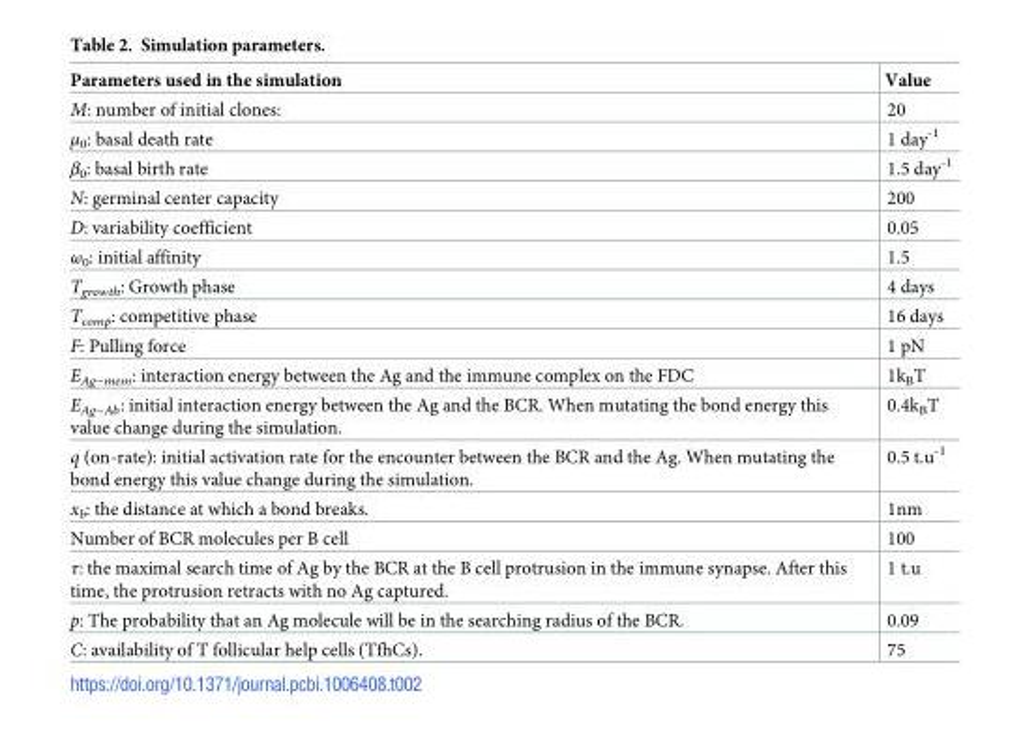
<table><thead><tr><td>Parameters used in the simulation</td><td>Value</td></tr></thead><tbody><tr><td>M: number of initial clones:</td><td>20</td></tr><tr><td>μ<sub>0</sub>: basal death rate</td><td>1 day<sup>-1</sup></td></tr><tr><td>β<sub>0</sub>: basal birth rate</td><td>1.5 day<sup>-1</sup></td></tr><tr><td>N: germinal center capacity</td><td>200</td></tr><tr><td>D: variability coefficient</td><td>0.05</td></tr><tr><td>ω<sub>0</sub>: initial affinity</td><td>1.5</td></tr><tr><td>T<sub>growth</sub>: Growth phase</td><td>4 days</td></tr><tr><td>T<sub>comp</sub>: competitive phase</td><td>16 days</td></tr><tr><td>F: Pulling force</td><td>1 pN</td></tr><tr><td>E<sub>Ag−mem</sub>: interaction energy between the Ag and the immune complex on the FDC</td><td>1k<sub>B</sub>T</td></tr><tr><td>E<sub>Ag−Ab</sub>: initial interaction energy between the Ag and the BCR. When mutating the bond energy this value change during the simulation.</td><td>0.4k<sub>B</sub>T</td></tr><tr><td>q (on-rate): initial activation rate for the encounter between the BCR and the Ag. When mutating the bond energy this value change during the simulation.</td><td>0.5 t.u<sup>-1</sup></td></tr><tr><td>x<sub>b</sub>: the distance at which a bond breaks.</td><td>1nm</td></tr><tr><td>Number of BCR molecules per B cell</td><td>100</td></tr><tr><td>τ: the maximal search time of Ag by the BCR at the B cell protrusion in the immune synapse. After this time, the protrusion retracts with no Ag captured.</td><td>1 t.u</td></tr><tr><td>p: The probability that an Ag molecule will be in the searching radius of the BCR.</td><td>0.09</td></tr><tr><td>C: availability of T follicular help cells (TfhCs).</td><td>75</td></tr></tbody></table>